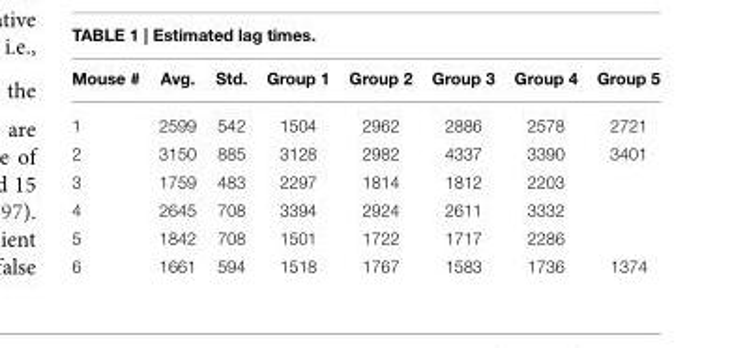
<table><thead><tr><td>Mouse #</td><td>Avg.</td><td>Std.</td><td>Group 1</td><td>Group 2</td><td>Group 3</td><td>Group 4</td><td>Group 5</td></tr></thead><tbody><tr><td>1</td><td>2599</td><td>542</td><td>1504</td><td>2962</td><td>2886</td><td>2578</td><td>2721</td></tr><tr><td>2</td><td>3150</td><td>885</td><td>3128</td><td>2982</td><td>4337</td><td>3390</td><td>3401</td></tr><tr><td>3</td><td>1759</td><td>483</td><td>2297</td><td>1814</td><td>1812</td><td>2203</td><td></td></tr><tr><td>4</td><td>2645</td><td>708</td><td>3394</td><td>2924</td><td>2611</td><td>3332</td><td></td></tr><tr><td>5</td><td>1842</td><td>708</td><td>1501</td><td>1722</td><td>1717</td><td>2286</td><td></td></tr><tr><td>6</td><td>1661</td><td>594</td><td>1518</td><td>1767</td><td>1583</td><td>1736</td><td>1374</td></tr></tbody></table>